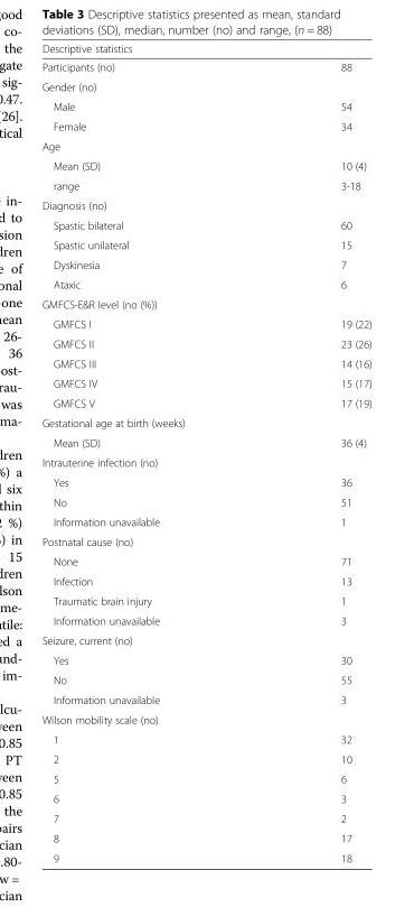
<table><thead><tr><td>Descriptive statistics</td><td></td></tr></thead><tbody><tr><td>Participants (no)</td><td>88</td></tr><tr><td colspan="2">Gender (no)</td></tr><tr><td>Male</td><td>54</td></tr><tr><td>Female</td><td>34</td></tr><tr><td colspan="2">Age</td></tr><tr><td>Mean (SD)</td><td>10 (4)</td></tr><tr><td>range</td><td>3-18</td></tr><tr><td colspan="2">Diagnosis (no)</td></tr><tr><td>Spastic bilateral</td><td>60</td></tr><tr><td>Spastic unilateral</td><td>15</td></tr><tr><td>Dyskinesia</td><td>7</td></tr><tr><td>Ataxic</td><td>6</td></tr><tr><td colspan="2">GMFCS-E&amp;R level (no (%))</td></tr><tr><td>GMFCS I</td><td>19 (22)</td></tr><tr><td>GMFCS II</td><td>23 (26)</td></tr><tr><td>GMFCS III</td><td>14 (16)</td></tr><tr><td>GMFCS IV</td><td>15 (17)</td></tr><tr><td>GMFCS V</td><td>17 (19)</td></tr><tr><td colspan="2">Gestational age at birth (weeks)</td></tr><tr><td>Mean (SD)</td><td>36 (4)</td></tr><tr><td colspan="2">Intrauterine infection (no)</td></tr><tr><td>Yes</td><td>36</td></tr><tr><td>No</td><td>51</td></tr><tr><td>Information unavailable</td><td>1</td></tr><tr><td colspan="2">Postnatal cause (no)</td></tr><tr><td>None</td><td>71</td></tr><tr><td>Infection</td><td>13</td></tr><tr><td>Traumatic brain injury</td><td>1</td></tr><tr><td>Information unavailable</td><td>3</td></tr><tr><td colspan="2">Seizure, current (no)</td></tr><tr><td>Yes</td><td>30</td></tr><tr><td>No</td><td>55</td></tr><tr><td>Information unavailable</td><td>3</td></tr><tr><td colspan="2">Wilson mobility scale (no)</td></tr><tr><td>1</td><td>32</td></tr><tr><td>2</td><td>10</td></tr><tr><td>5</td><td>6</td></tr><tr><td>6</td><td>3</td></tr><tr><td>7</td><td>2</td></tr><tr><td>8</td><td>17</td></tr><tr><td>9</td><td>18</td></tr></tbody></table>